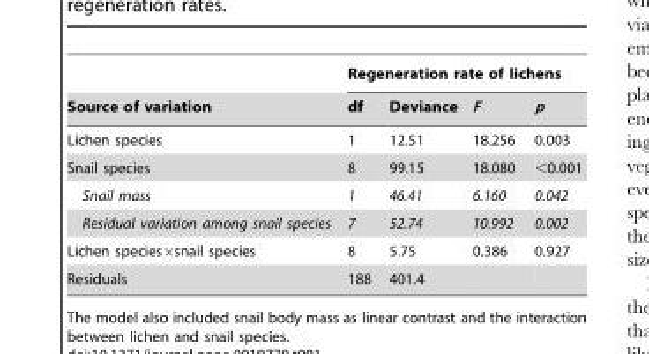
<table><thead><tr><td rowspan="2">Source of variation</td><td colspan="4">Regeneration rate of lichens</td></tr><tr><td>df</td><td>Deviance</td><td>F</td><td>p</td></tr></thead><tbody><tr><td>Lichen species</td><td>1</td><td>12.51</td><td>18.256</td><td>0.003</td></tr><tr><td>Snail species</td><td>8</td><td>99.15</td><td>18.080</td><td>&lt;0.001</td></tr><tr><td>Snail mass</td><td>1</td><td>46.41</td><td>6.160</td><td>0.042</td></tr><tr><td>Residual variation among snail species</td><td>7</td><td>52.74</td><td>10.992</td><td>0.002</td></tr><tr><td>Lichen species×snail species</td><td>8</td><td>5.75</td><td>0.386</td><td>0.927</td></tr><tr><td>Residuals</td><td>188</td><td>401.4</td><td></td><td></td></tr></tbody></table>